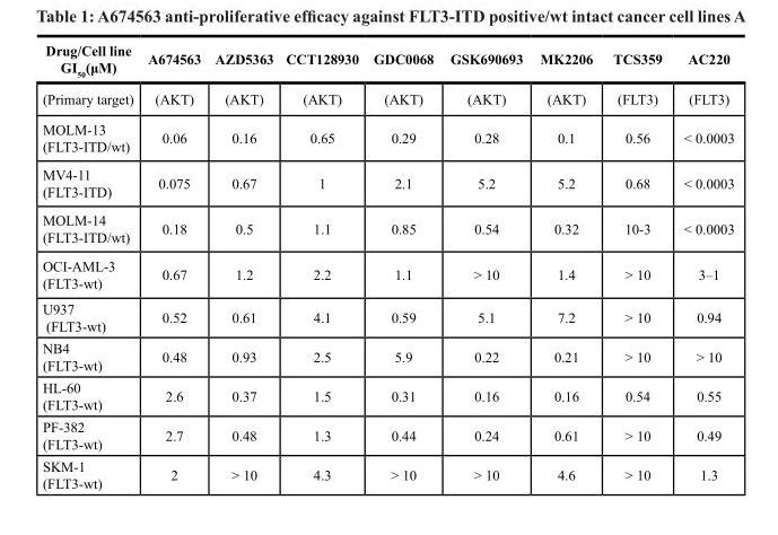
<table><thead><tr><td>Drug/Cell line GI<sub>50</sub>(μM)</td><td>A674563</td><td>AZD5363</td><td>CCT128930</td><td>GDC0068</td><td>GSK690693</td><td>MK2206</td><td>TCS359</td><td>AC220</td></tr></thead><tbody><tr><td>(Primary target)</td><td>(AKT)</td><td>(AKT)</td><td>(AKT)</td><td>(AKT)</td><td>(AKT)</td><td>(AKT)</td><td>(FLT3)</td><td>(FLT3)</td></tr><tr><td>MOLM-13 (FLT3-ITD/wt)</td><td>0.06</td><td>0.16</td><td>0.65</td><td>0.29</td><td>0.28</td><td>0.1</td><td>0.56</td><td>&lt; 0.0003</td></tr><tr><td>MV4-11 (FLT3-ITD)</td><td>0.075</td><td>0.67</td><td>1</td><td>2.1</td><td>5.2</td><td>5.2</td><td>0.68</td><td>&lt; 0.0003</td></tr><tr><td>MOLM-14 (FLT3-ITD/wt)</td><td>0.18</td><td>0.5</td><td>1.1</td><td>0.85</td><td>0.54</td><td>0.32</td><td>10-3</td><td>&lt; 0.0003</td></tr><tr><td>OCI-AML-3 (FLT3-wt)</td><td>0.67</td><td>1.2</td><td>2.2</td><td>1.1</td><td>&gt; 10</td><td>1.4</td><td>&gt; 10</td><td>3–1</td></tr><tr><td>U937 (FLT3-wt)</td><td>0.52</td><td>0.61</td><td>4.1</td><td>0.59</td><td>5.1</td><td>7.2</td><td>&gt; 10</td><td>0.94</td></tr><tr><td>NB4 (FLT3-wt)</td><td>0.48</td><td>0.93</td><td>2.5</td><td>5.9</td><td>0.22</td><td>0.21</td><td>&gt; 10</td><td>&gt; 10</td></tr><tr><td>HL-60 (FLT3-wt)</td><td>2.6</td><td>0.37</td><td>1.5</td><td>0.31</td><td>0.16</td><td>0.16</td><td>0.54</td><td>0.55</td></tr><tr><td>PF-382 (FLT3-wt)</td><td>2.7</td><td>0.48</td><td>1.3</td><td>0.44</td><td>0.24</td><td>0.61</td><td>&gt; 10</td><td>0.49</td></tr><tr><td>SKM-1 (FLT3-wt)</td><td>2</td><td>&gt; 10</td><td>4.3</td><td>&gt; 10</td><td>&gt; 10</td><td>4.6</td><td>&gt; 10</td><td>1.3</td></tr></tbody></table>